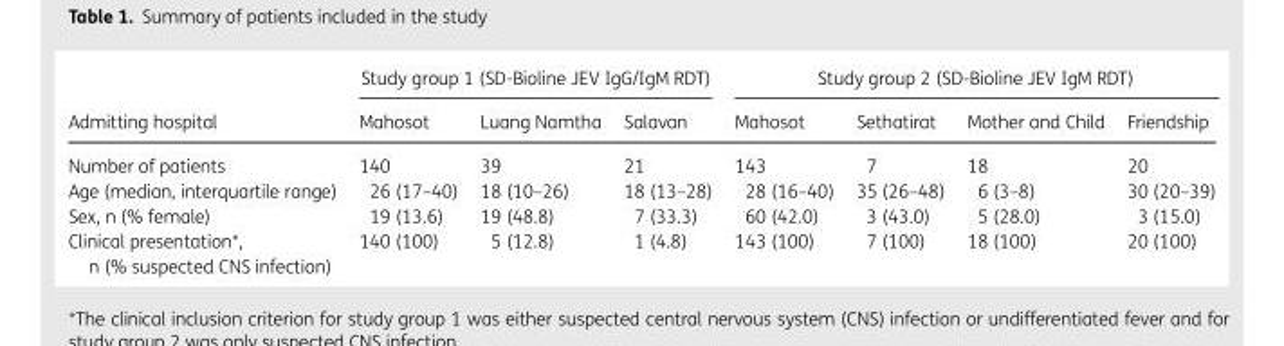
<table><thead><tr><td rowspan="2">Admitting hospital</td><td colspan="3">Study group 1 (SD-Bioline JEV IgG/IgM RDT)</td><td colspan="4">Study group 2 (SD-Bioline JEV IgM RDT)</td></tr><tr><td>Mahosot</td><td>Luang Namtha</td><td>Salavan</td><td>Mahosot</td><td>Sethatirat</td><td>Mother and Child</td><td>Friendship</td></tr></thead><tbody><tr><td>Number of patients</td><td>140</td><td>39</td><td>21</td><td>143</td><td>7</td><td>18</td><td>20</td></tr><tr><td>Age (median, interquartile range)</td><td>26 (17–40)</td><td>18 (10–26)</td><td>18 (13–28)</td><td>28 (16–40)</td><td>35 (26–48)</td><td>6 (3–8)</td><td>30 (20–39)</td></tr><tr><td>Sex, n (% female)</td><td>19 (13.6)</td><td>19 (48.8)</td><td>7 (33.3)</td><td>60 (42.0)</td><td>3 (43.0)</td><td>5 (28.0)</td><td>3 (15.0)</td></tr><tr><td>Clinical presentation*, n (% suspected CNS infection)</td><td>140 (100)</td><td>5 (12.8)</td><td>1 (4.8)</td><td>143 (100)</td><td>7 (100)</td><td>18 (100)</td><td>20 (100)</td></tr></tbody></table>